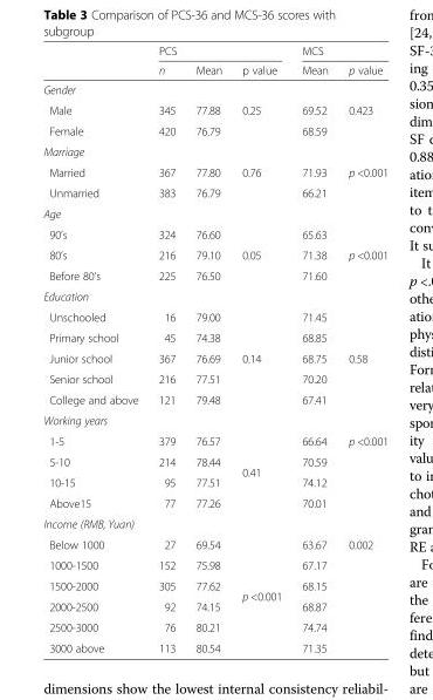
<table><thead><tr><td rowspan="2"></td><td colspan="3">PCS</td><td colspan="2">MCS</td></tr><tr><td>n</td><td>Mean</td><td>p value</td><td>Mean</td><td>p value</td></tr></thead><tbody><tr><td colspan="6">Gender</td></tr><tr><td>Male</td><td>345</td><td>77.88</td><td rowspan="2">0.25</td><td>69.52</td><td rowspan="2">0.423</td></tr><tr><td>Female</td><td>420</td><td>76.79</td><td>68.59</td></tr><tr><td colspan="6">Marriage</td></tr><tr><td>Married</td><td>367</td><td>77.80</td><td rowspan="2">0.76</td><td>71.93</td><td rowspan="2">p &lt;0.001</td></tr><tr><td>Unmarried</td><td>383</td><td>76.79</td><td>66.21</td></tr><tr><td colspan="6">Age</td></tr><tr><td>90’s</td><td>324</td><td>76.60</td><td rowspan="3">0.05</td><td>65.63</td><td rowspan="3">p &lt;0.001</td></tr><tr><td>80’s</td><td>216</td><td>79.10</td><td>71.38</td></tr><tr><td>Before 80’s</td><td>225</td><td>76.50</td><td>71.60</td></tr><tr><td colspan="6">Education</td></tr><tr><td>Unschooled</td><td>16</td><td>79.00</td><td rowspan="5">0.14</td><td>71.45</td><td rowspan="5">0.58</td></tr><tr><td>Primary school</td><td>45</td><td>74.38</td><td>68.85</td></tr><tr><td>Junior school</td><td>367</td><td>76.69</td><td>68.75</td></tr><tr><td>Senior school</td><td>216</td><td>77.51</td><td>70.20</td></tr><tr><td>College and above</td><td>121</td><td>79.48</td><td>67.41</td></tr><tr><td colspan="6">Working years</td></tr><tr><td>1-5</td><td>379</td><td>76.57</td><td rowspan="4">0.41</td><td>66.64</td><td rowspan="4">p &lt;0.001</td></tr><tr><td>5-10</td><td>214</td><td>78.44</td><td>70.59</td></tr><tr><td>10-15</td><td>95</td><td>77.51</td><td>74.12</td></tr><tr><td>Above15</td><td>77</td><td>77.26</td><td>70.01</td></tr><tr><td colspan="6">Income (RMB, Yuan)</td></tr><tr><td>Below 1000</td><td>27</td><td>69.54</td><td rowspan="6">p &lt;0.001</td><td>63.67</td><td rowspan="6">0.002</td></tr><tr><td>1000-1500</td><td>152</td><td>75.98</td><td>67.17</td></tr><tr><td>1500-2000</td><td>305</td><td>77.62</td><td>68.15</td></tr><tr><td>2000-2500</td><td>92</td><td>74.15</td><td>68.87</td></tr><tr><td>2500-3000</td><td>76</td><td>80.21</td><td>74.74</td></tr><tr><td>3000 above</td><td>113</td><td>80.54</td><td>71.35</td></tr></tbody></table>